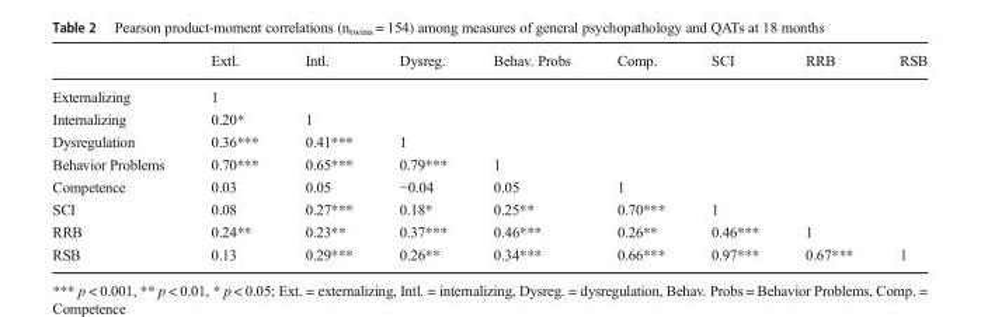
<table><thead><tr><td></td><td>Extl.</td><td>Intl.</td><td>Dysreg.</td><td>Behav. Probs</td><td>Comp.</td><td>SCI</td><td>RRB</td><td>RSB</td></tr></thead><tbody><tr><td>Externalizing</td><td>1</td><td></td><td></td><td></td><td></td><td></td><td></td><td></td></tr><tr><td>Internalizing</td><td>0.20*</td><td>1</td><td></td><td></td><td></td><td></td><td></td><td></td></tr><tr><td>Dysregulation</td><td>0.36***</td><td>0.41***</td><td>1</td><td></td><td></td><td></td><td></td><td></td></tr><tr><td>Behavior Problems</td><td>0.70***</td><td>0.65***</td><td>0.79***</td><td>1</td><td></td><td></td><td></td><td></td></tr><tr><td>Competence</td><td>0.03</td><td>0.05</td><td>−0.04</td><td>0.05</td><td>1</td><td></td><td></td><td></td></tr><tr><td>SCI</td><td>0.08</td><td>0.27***</td><td>0.18*</td><td>0.25**</td><td>0.70***</td><td>1</td><td></td><td></td></tr><tr><td>RRB</td><td>0.24**</td><td>0.23**</td><td>0.37***</td><td>0.46***</td><td>0.26**</td><td>0.46***</td><td>1</td><td></td></tr><tr><td>RSB</td><td>0.13</td><td>0.29***</td><td>0.26**</td><td>0.34***</td><td>0.66***</td><td>0.97***</td><td>0.67***</td><td>1</td></tr></tbody></table>